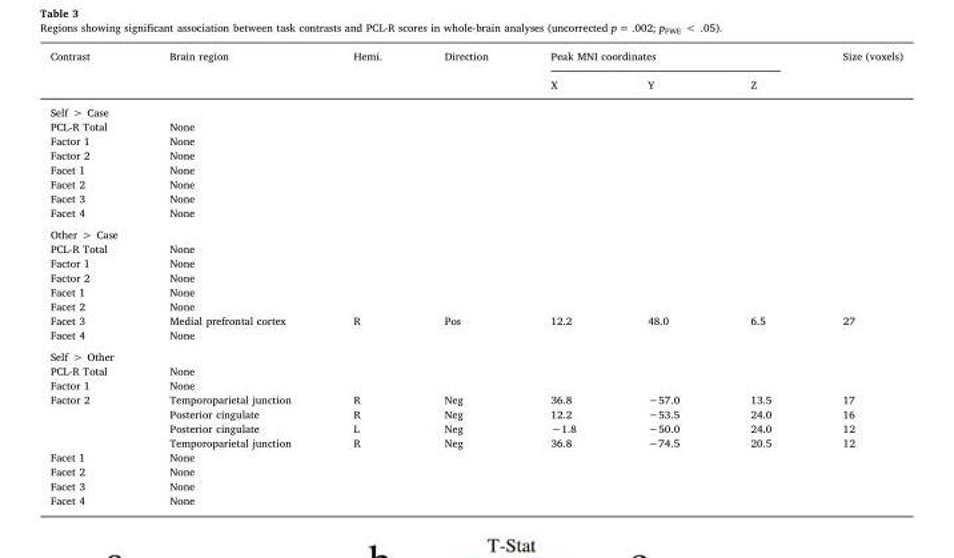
<table><thead><tr><td rowspan="2">Contrast</td><td rowspan="2">Brain region</td><td rowspan="2">Hemi.</td><td rowspan="2">Direction</td><td colspan="3">Peak MNI coordinates</td><td rowspan="2">Size (voxels)</td></tr><tr><td>X</td><td>Y</td><td>Z</td></tr></thead><tbody><tr><td colspan="8">Self &gt; Case</td></tr><tr><td>PCL-R Total</td><td>None</td><td></td><td></td><td></td><td></td><td></td><td></td></tr><tr><td>Factor 1</td><td>None</td><td></td><td></td><td></td><td></td><td></td><td></td></tr><tr><td>Factor 2</td><td>None</td><td></td><td></td><td></td><td></td><td></td><td></td></tr><tr><td>Facet 1</td><td>None</td><td></td><td></td><td></td><td></td><td></td><td></td></tr><tr><td>Facet 2</td><td>None</td><td></td><td></td><td></td><td></td><td></td><td></td></tr><tr><td>Facet 3</td><td>None</td><td></td><td></td><td></td><td></td><td></td><td></td></tr><tr><td>Facet 4</td><td>None</td><td></td><td></td><td></td><td></td><td></td><td></td></tr><tr><td colspan="8">Other &gt; Case</td></tr><tr><td>PCL-R Total</td><td>None</td><td></td><td></td><td></td><td></td><td></td><td></td></tr><tr><td>Factor 1</td><td>None</td><td></td><td></td><td></td><td></td><td></td><td></td></tr><tr><td>Factor 2</td><td>None</td><td></td><td></td><td></td><td></td><td></td><td></td></tr><tr><td>Facet 1</td><td>None</td><td></td><td></td><td></td><td></td><td></td><td></td></tr><tr><td>Facet 2</td><td>None</td><td></td><td></td><td></td><td></td><td></td><td></td></tr><tr><td>Facet 3</td><td>Medial prefrontal cortex</td><td>R</td><td>Pos</td><td>12.2</td><td>48.0</td><td>6.5</td><td>27</td></tr><tr><td>Facet 4</td><td>None</td><td></td><td></td><td></td><td></td><td></td><td></td></tr><tr><td colspan="8">Self &gt; Other</td></tr><tr><td>PCL-R Total</td><td>None</td><td></td><td></td><td></td><td></td><td></td><td></td></tr><tr><td>Factor 1</td><td>None</td><td></td><td></td><td></td><td></td><td></td><td></td></tr><tr><td rowspan="4">Factor 2</td><td>Temporoparietal junction</td><td>R</td><td>Neg</td><td>36.8</td><td>−57.0</td><td>13.5</td><td>17</td></tr><tr><td>Posterior cingulate</td><td>R</td><td>Neg</td><td>12.2</td><td>−53.5</td><td>24.0</td><td>16</td></tr><tr><td>Posterior cingulate</td><td>L</td><td>Neg</td><td>−1.8</td><td>−50.0</td><td>24.0</td><td>12</td></tr><tr><td>Temporoparietal junction</td><td>R</td><td>Neg</td><td>36.8</td><td>−74.5</td><td>20.5</td><td>12</td></tr><tr><td>Facet 1</td><td>None</td><td></td><td></td><td></td><td></td><td></td><td></td></tr><tr><td>Facet 2</td><td>None</td><td></td><td></td><td></td><td></td><td></td><td></td></tr><tr><td>Facet 3</td><td>None</td><td></td><td></td><td></td><td></td><td></td><td></td></tr><tr><td>Facet 4</td><td>None</td><td></td><td></td><td></td><td></td><td></td><td></td></tr></tbody></table>